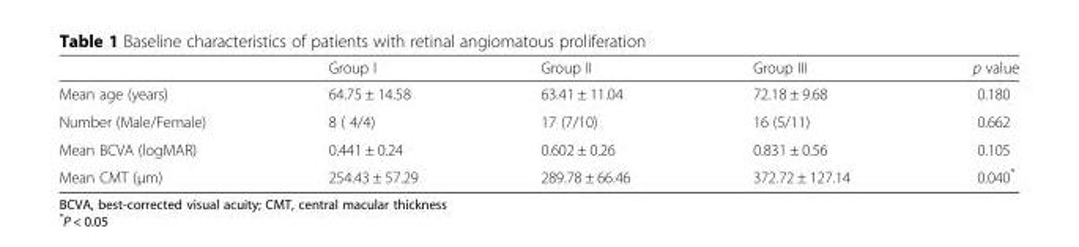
<table><thead><tr><td></td><td>Group I</td><td>Group II</td><td>Group III</td><td>p value</td></tr></thead><tbody><tr><td>Mean age (years)</td><td>64.75 ± 14.58</td><td>63.41 ± 11.04</td><td>72.18 ± 9.68</td><td>0.180</td></tr><tr><td>Number (Male/Female)</td><td>8 ( 4/4)</td><td>17 (7/10)</td><td>16 (5/11)</td><td>0.662</td></tr><tr><td>Mean BCVA (logMAR)</td><td>0.441 ± 0.24</td><td>0.602 ± 0.26</td><td>0.831 ± 0.56</td><td>0.105</td></tr><tr><td>Mean CMT (μm)</td><td>254.43 ± 57.29</td><td>289.78 ± 66.46</td><td>372.72 ± 127.14</td><td>0.040*</td></tr></tbody></table>